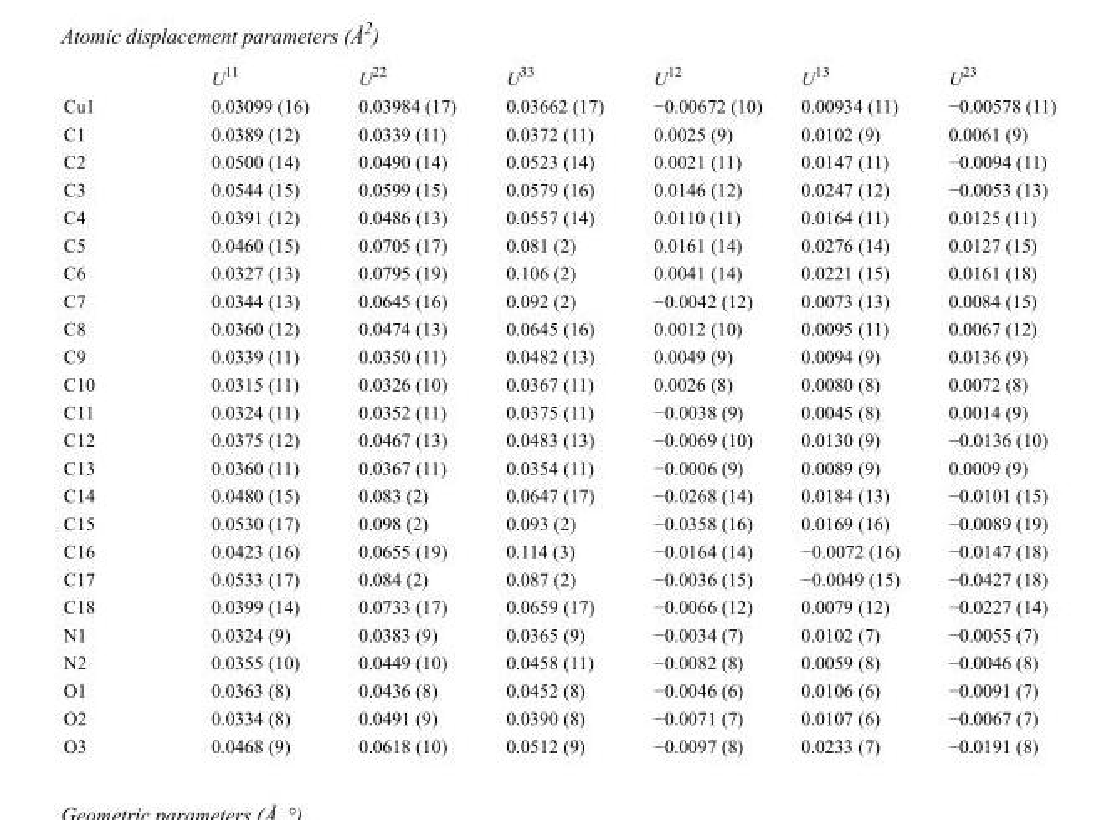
<table><thead><tr><td></td><td>U<sup>11</sup></td><td>U<sup>22</sup></td><td>U<sup>33</sup></td><td>U<sup>12</sup></td><td>U<sup>13</sup></td><td>U<sup>23</sup></td></tr></thead><tbody><tr><td>Cu1</td><td>0.03099 (16)</td><td>0.03984 (17)</td><td>0.03662 (17)</td><td>−0.00672 (10)</td><td>0.00934 (11)</td><td>−0.00578 (11)</td></tr><tr><td>C1</td><td>0.0389 (12)</td><td>0.0339 (11)</td><td>0.0372 (11)</td><td>0.0025 (9)</td><td>0.0102 (9)</td><td>0.0061 (9)</td></tr><tr><td>C2</td><td>0.0500 (14)</td><td>0.0490 (14)</td><td>0.0523 (14)</td><td>0.0021 (11)</td><td>0.0147 (11)</td><td>−0.0094 (11)</td></tr><tr><td>C3</td><td>0.0544 (15)</td><td>0.0599 (15)</td><td>0.0579 (16)</td><td>0.0146 (12)</td><td>0.0247 (12)</td><td>−0.0053 (13)</td></tr><tr><td>C4</td><td>0.0391 (12)</td><td>0.0486 (13)</td><td>0.0557 (14)</td><td>0.0110 (11)</td><td>0.0164 (11)</td><td>0.0125 (11)</td></tr><tr><td>C5</td><td>0.0460 (15)</td><td>0.0705 (17)</td><td>0.081 (2)</td><td>0.0161 (14)</td><td>0.0276 (14)</td><td>0.0127 (15)</td></tr><tr><td>C6</td><td>0.0327 (13)</td><td>0.0795 (19)</td><td>0.106 (2)</td><td>0.0041 (14)</td><td>0.0221 (15)</td><td>0.0161 (18)</td></tr><tr><td>C7</td><td>0.0344 (13)</td><td>0.0645 (16)</td><td>0.092 (2)</td><td>−0.0042 (12)</td><td>0.0073 (13)</td><td>0.0084 (15)</td></tr><tr><td>C8</td><td>0.0360 (12)</td><td>0.0474 (13)</td><td>0.0645 (16)</td><td>0.0012 (10)</td><td>0.0095 (11)</td><td>0.0067 (12)</td></tr><tr><td>C9</td><td>0.0339 (11)</td><td>0.0350 (11)</td><td>0.0482 (13)</td><td>0.0049 (9)</td><td>0.0094 (9)</td><td>0.0136 (9)</td></tr><tr><td>C10</td><td>0.0315 (11)</td><td>0.0326 (10)</td><td>0.0367 (11)</td><td>0.0026 (8)</td><td>0.0080 (8)</td><td>0.0072 (8)</td></tr><tr><td>C11</td><td>0.0324 (11)</td><td>0.0352 (11)</td><td>0.0375 (11)</td><td>−0.0038 (9)</td><td>0.0045 (8)</td><td>0.0014 (9)</td></tr><tr><td>C12</td><td>0.0375 (12)</td><td>0.0467 (13)</td><td>0.0483 (13)</td><td>−0.0069 (10)</td><td>0.0130 (9)</td><td>−0.0136 (10)</td></tr><tr><td>C13</td><td>0.0360 (11)</td><td>0.0367 (11)</td><td>0.0354 (11)</td><td>−0.0006 (9)</td><td>0.0089 (9)</td><td>0.0009 (9)</td></tr><tr><td>C14</td><td>0.0480 (15)</td><td>0.083 (2)</td><td>0.0647 (17)</td><td>−0.0268 (14)</td><td>0.0184 (13)</td><td>−0.0101 (15)</td></tr><tr><td>C15</td><td>0.0530 (17)</td><td>0.098 (2)</td><td>0.093 (2)</td><td>−0.0358 (16)</td><td>0.0169 (16)</td><td>−0.0089 (19)</td></tr><tr><td>C16</td><td>0.0423 (16)</td><td>0.0655 (19)</td><td>0.114 (3)</td><td>−0.0164 (14)</td><td>−0.0072 (16)</td><td>−0.0147 (18)</td></tr><tr><td>C17</td><td>0.0533 (17)</td><td>0.084 (2)</td><td>0.087 (2)</td><td>−0.0036 (15)</td><td>−0.0049 (15)</td><td>−0.0427 (18)</td></tr><tr><td>C18</td><td>0.0399 (14)</td><td>0.0733 (17)</td><td>0.0659 (17)</td><td>−0.0066 (12)</td><td>0.0079 (12)</td><td>−0.0227 (14)</td></tr><tr><td>N1</td><td>0.0324 (9)</td><td>0.0383 (9)</td><td>0.0365 (9)</td><td>−0.0034 (7)</td><td>0.0102 (7)</td><td>−0.0055 (7)</td></tr><tr><td>N2</td><td>0.0355 (10)</td><td>0.0449 (10)</td><td>0.0458 (11)</td><td>−0.0082 (8)</td><td>0.0059 (8)</td><td>−0.0046 (8)</td></tr><tr><td>O1</td><td>0.0363 (8)</td><td>0.0436 (8)</td><td>0.0452 (8)</td><td>−0.0046 (6)</td><td>0.0106 (6)</td><td>−0.0091 (7)</td></tr><tr><td>O2</td><td>0.0334 (8)</td><td>0.0491 (9)</td><td>0.0390 (8)</td><td>−0.0071 (7)</td><td>0.0107 (6)</td><td>−0.0067 (7)</td></tr><tr><td>O3</td><td>0.0468 (9)</td><td>0.0618 (10)</td><td>0.0512 (9)</td><td>−0.0097 (8)</td><td>0.0233 (7)</td><td>−0.0191 (8)</td></tr></tbody></table>